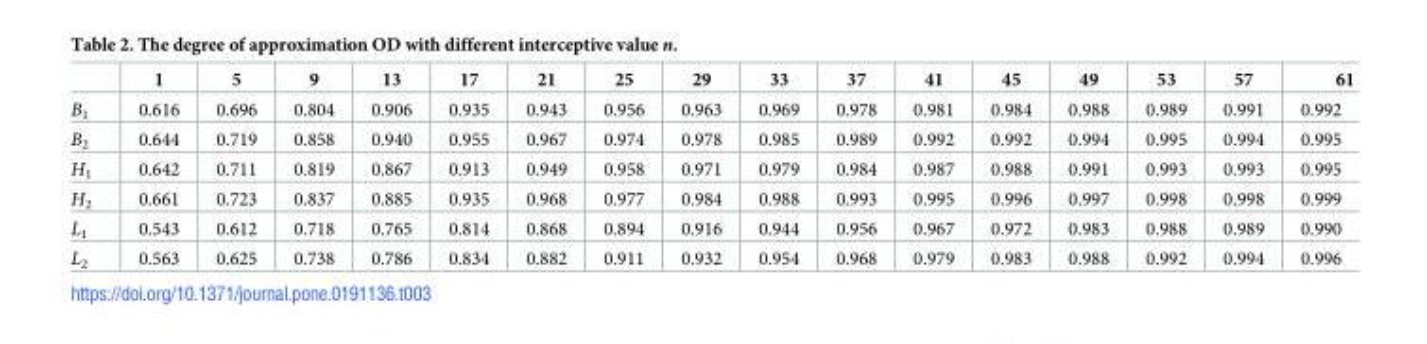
<table><thead><tr><td></td><td>1</td><td>5</td><td>9</td><td>13</td><td>17</td><td>21</td><td>25</td><td>29</td><td>33</td><td>37</td><td>41</td><td>45</td><td>49</td><td>53</td><td>57</td><td>61</td></tr></thead><tbody><tr><td>B<sub>1</sub></td><td>0.616</td><td>0.696</td><td>0.804</td><td>0.906</td><td>0.935</td><td>0.943</td><td>0.956</td><td>0.963</td><td>0.969</td><td>0.978</td><td>0.981</td><td>0.984</td><td>0.988</td><td>0.989</td><td>0.991</td><td>0.992</td></tr><tr><td>B<sub>2</sub></td><td>0.644</td><td>0.719</td><td>0.858</td><td>0.940</td><td>0.955</td><td>0.967</td><td>0.974</td><td>0.978</td><td>0.985</td><td>0.989</td><td>0.992</td><td>0.992</td><td>0.994</td><td>0.995</td><td>0.994</td><td>0.995</td></tr><tr><td>H<sub>1</sub></td><td>0.642</td><td>0.711</td><td>0.819</td><td>0.867</td><td>0.913</td><td>0.949</td><td>0.958</td><td>0.971</td><td>0.979</td><td>0.984</td><td>0.987</td><td>0.988</td><td>0.991</td><td>0.993</td><td>0.993</td><td>0.995</td></tr><tr><td>H<sub>2</sub></td><td>0.661</td><td>0.723</td><td>0.837</td><td>0.885</td><td>0.935</td><td>0.968</td><td>0.977</td><td>0.984</td><td>0.988</td><td>0.993</td><td>0.995</td><td>0.996</td><td>0.997</td><td>0.998</td><td>0.998</td><td>0.999</td></tr><tr><td>L<sub>1</sub></td><td>0.543</td><td>0.612</td><td>0.718</td><td>0.765</td><td>0.814</td><td>0.868</td><td>0.894</td><td>0.916</td><td>0.944</td><td>0.956</td><td>0.967</td><td>0.972</td><td>0.983</td><td>0.988</td><td>0.989</td><td>0.990</td></tr><tr><td>L<sub>2</sub></td><td>0.563</td><td>0.625</td><td>0.738</td><td>0.786</td><td>0.834</td><td>0.882</td><td>0.911</td><td>0.932</td><td>0.954</td><td>0.968</td><td>0.979</td><td>0.983</td><td>0.988</td><td>0.992</td><td>0.994</td><td>0.996</td></tr></tbody></table>